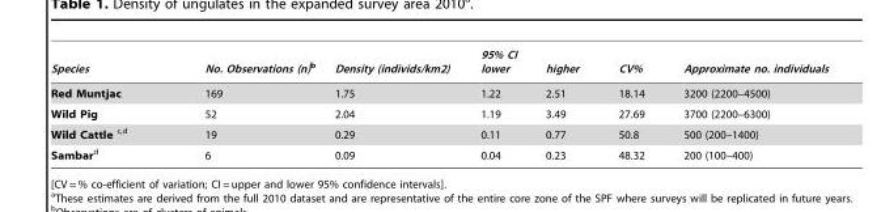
<table><thead><tr><td>Species</td><td>No. Observations (n)b</td><td>Density (individs/km2)</td><td>95% CI lower</td><td>higher</td><td>CV%</td><td>Approximate no. individuals</td></tr></thead><tbody><tr><td>Red Muntjac</td><td>169</td><td>1.75</td><td>1.22</td><td>2.51</td><td>18.14</td><td>3200 (2200–4500)</td></tr><tr><td>Wild Pig</td><td>52</td><td>2.04</td><td>1.19</td><td>3.49</td><td>27.69</td><td>3700 (2200–6300)</td></tr><tr><td>Wild Cattle c<sup>,</sup>d</td><td>19</td><td>0.29</td><td>0.11</td><td>0.77</td><td>50.8</td><td>500 (200–1400)</td></tr><tr><td>Sambard</td><td>6</td><td>0.09</td><td>0.04</td><td>0.23</td><td>48.32</td><td>200 (100–400)</td></tr></tbody></table>